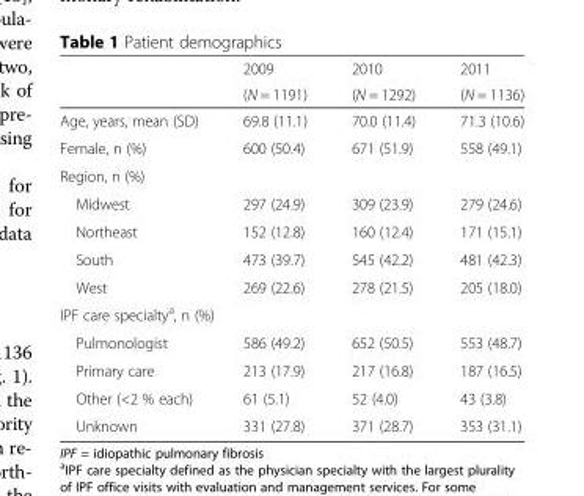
<table><thead><tr><td rowspan="2"></td><td rowspan="2">2009 (N = 1191)</td><td rowspan="2">2010 (N = 1292)</td><td rowspan="2">2011 (N = 1136)</td></tr><tr></tr></thead><tbody><tr><td>Age, years, mean (SD)</td><td>69.8 (11.1)</td><td>70.0 (11.4)</td><td>71.3 (10.6)</td></tr><tr><td>Female, n (%)</td><td>600 (50.4)</td><td>671 (51.9)</td><td>558 (49.1)</td></tr><tr><td colspan="4">Region, n (%)</td></tr><tr><td>Midwest</td><td>297 (24.9)</td><td>309 (23.9)</td><td>279 (24.6)</td></tr><tr><td>Northeast</td><td>152 (12.8)</td><td>160 (12.4)</td><td>171 (15.1)</td></tr><tr><td>South</td><td>473 (39.7)</td><td>545 (42.2)</td><td>481 (42.3)</td></tr><tr><td>West</td><td>269 (22.6)</td><td>278 (21.5)</td><td>205 (18.0)</td></tr><tr><td colspan="4">IPF care specialty<sup>a</sup>, n (%)</td></tr><tr><td>Pulmonologist</td><td>586 (49.2)</td><td>652 (50.5)</td><td>553 (48.7)</td></tr><tr><td>Primary care</td><td>213 (17.9)</td><td>217 (16.8)</td><td>187 (16.5)</td></tr><tr><td>Other (&lt;2 % each)</td><td>61 (5.1)</td><td>52 (4.0)</td><td>43 (3.8)</td></tr><tr><td>Unknown</td><td>331 (27.8)</td><td>371 (28.7)</td><td>353 (31.1)</td></tr></tbody></table>